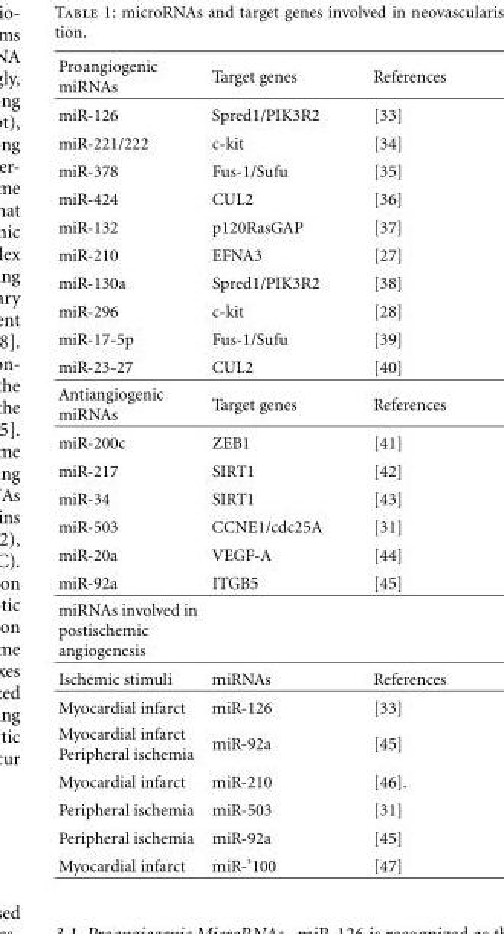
<table><thead><tr><td>Proangiogenic miRNAs</td><td>Target genes</td><td>References</td></tr></thead><tbody><tr><td>miR-126</td><td>Spred1/PIK3R2</td><td>[33]</td></tr><tr><td>miR-221/222</td><td>c-kit</td><td>[34]</td></tr><tr><td>miR-378</td><td>Fus-1/Sufu</td><td>[35]</td></tr><tr><td>miR-424</td><td>CUL2</td><td>[36]</td></tr><tr><td>miR-132</td><td>p120RasGAP</td><td>[37]</td></tr><tr><td>miR-210</td><td>EFNA3</td><td>[27]</td></tr><tr><td>miR-130a</td><td>Spred1/PIK3R2</td><td>[38]</td></tr><tr><td>miR-296</td><td>c-kit</td><td>[28]</td></tr><tr><td>miR-17-5p</td><td>Fus-1/Sufu</td><td>[39]</td></tr><tr><td>miR-23-27</td><td>CUL2</td><td>[40]</td></tr><tr><td>Antiangiogenic miRNAs</td><td>Target genes</td><td>References</td></tr><tr><td>miR-200c</td><td>ZEB1</td><td>[41]</td></tr><tr><td>miR-217</td><td>SIRT1</td><td>[42]</td></tr><tr><td>miR-34</td><td>SIRT1</td><td>[43]</td></tr><tr><td>miR-503</td><td>CCNE1/cdc25A</td><td>[31]</td></tr><tr><td>miR-20a</td><td>VEGF-A</td><td>[44]</td></tr><tr><td>miR-92a</td><td>ITGB5</td><td>[45]</td></tr><tr><td colspan="3">miRNAs involved in postischemic angiogenesis</td></tr><tr><td>Ischemic stimuli</td><td>miRNAs</td><td>References</td></tr><tr><td>Myocardial infarct</td><td>miR-126</td><td>[33]</td></tr><tr><td>Myocardial infarct Peripheral ischemia</td><td>miR-92a</td><td>[45]</td></tr><tr><td>Myocardial infarct</td><td>miR-210</td><td>[46].</td></tr><tr><td>Peripheral ischemia</td><td>miR-503</td><td>[31]</td></tr><tr><td>Peripheral ischemia</td><td>miR-92a</td><td>[45]</td></tr><tr><td>Myocardial infarct</td><td>miR-’100</td><td>[47]</td></tr></tbody></table>